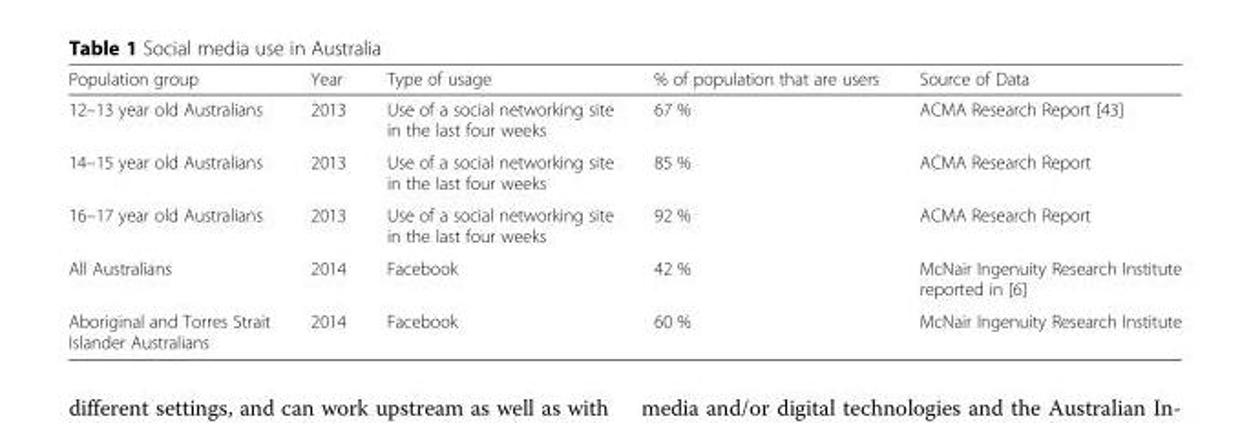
<table><thead><tr><td>Population group</td><td>Year</td><td>Type of usage</td><td>% of population that are users</td><td>Source of Data</td></tr></thead><tbody><tr><td>12–13 year old Australians</td><td>2013</td><td>Use of a social networking site in the last four weeks</td><td>67 %</td><td>ACMA Research Report [43]</td></tr><tr><td>14–15 year old Australians</td><td>2013</td><td>Use of a social networking site in the last four weeks</td><td>85 %</td><td>ACMA Research Report</td></tr><tr><td>16–17 year old Australians</td><td>2013</td><td>Use of a social networking site in the last four weeks</td><td>92 %</td><td>ACMA Research Report</td></tr><tr><td>All Australians</td><td>2014</td><td>Facebook</td><td>42 %</td><td>McNair Ingenuity Research Institute reported in [6]</td></tr><tr><td>Aboriginal and Torres Strait Islander Australians</td><td>2014</td><td>Facebook</td><td>60 %</td><td>McNair Ingenuity Research Institute</td></tr></tbody></table>